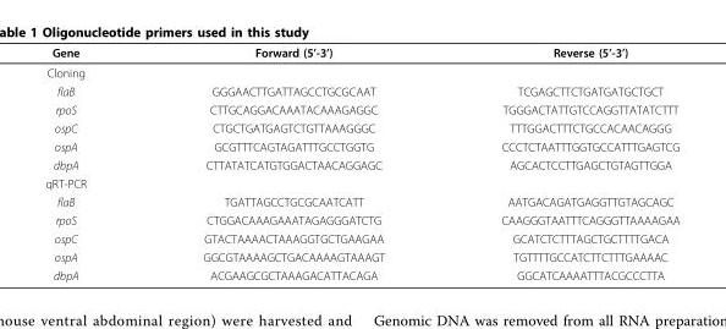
<table><thead><tr><td>Gene</td><td>Forward (5’-3’)</td><td>Reverse (5’-3’)</td></tr></thead><tbody><tr><td colspan="3">Cloning</td></tr><tr><td>flaB</td><td>GGGAACTTGATTAGCCTGCGCAAT</td><td>TCGAGCTTCTGATGATGCTGCT</td></tr><tr><td>rpoS</td><td>CTTGCAGGACAAATACAAAGAGGC</td><td>TGGGACTATTGTCCAGGTTATATCTTT</td></tr><tr><td>ospC</td><td>CTGCTGATGAGTCTGTTAAAGGGC</td><td>TTTGGACTTTCTGCCACAACAGGG</td></tr><tr><td>ospA</td><td>GCGTTTCAGTAGATTTGCCTGGTG</td><td>CCCTCTAATTTGGTGCCATTTGAGTCG</td></tr><tr><td>dbpA</td><td>CTTATATCATGTGGACTAACAGGAGC</td><td>AGCACTCCTTGAGCTGTAGTTGGA</td></tr><tr><td colspan="3">qRT-PCR</td></tr><tr><td>flaB</td><td>TGATTAGCCTGCGCAATCATT</td><td>AATGACAGATGAGGTTGTAGCAGC</td></tr><tr><td>rpoS</td><td>CTGGACAAAGAAATAGAGGGATCTG</td><td>CAAGGGTAATTTCAGGGTTAAAAGAA</td></tr><tr><td>ospC</td><td>GTACTAAAACTAAAGGTGCTGAAGAA</td><td>GCATCTCTTTAGCTGCTTTTGACA</td></tr><tr><td>ospA</td><td>GGCGTAAAAGCTGACAAAAGTAAAGT</td><td>TGTTTTGCCATCTTCTTTGAAAAC</td></tr><tr><td>dbpA</td><td>ACGAAGCGCTAAAGACATTACAGA</td><td>GGCATCAAAATTTACGCCCTTA</td></tr></tbody></table>